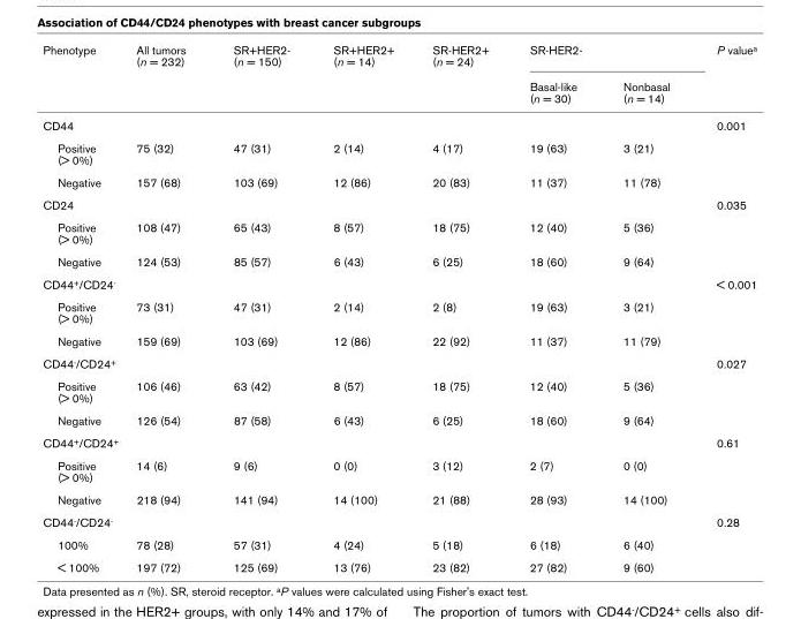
<table><thead><tr><td rowspan="2">Phenotype</td><td rowspan="2">All tumors (n = 232)</td><td rowspan="2">SR+HER2- (n = 150)</td><td rowspan="2">SR+HER2+ (n = 14)</td><td rowspan="2">SR-HER2+ (n = 24)</td><td colspan="2">SR-HER2-</td><td rowspan="2">P value<sup>a</sup></td></tr><tr><td>Basal-like (n = 30)</td><td>Nonbasal (n = 14)</td></tr></thead><tbody><tr><td>CD44</td><td></td><td></td><td></td><td></td><td></td><td></td><td>0.001</td></tr><tr><td>Positive (&gt; 0%)</td><td>75 (32)</td><td>47 (31)</td><td>2 (14)</td><td>4 (17)</td><td>19 (63)</td><td>3 (21)</td><td></td></tr><tr><td>Negative</td><td>157 (68)</td><td>103 (69)</td><td>12 (86)</td><td>20 (83)</td><td>11 (37)</td><td>11 (78)</td><td></td></tr><tr><td>CD24</td><td></td><td></td><td></td><td></td><td></td><td></td><td>0.035</td></tr><tr><td>Positive (&gt; 0%)</td><td>108 (47)</td><td>65 (43)</td><td>8 (57)</td><td>18 (75)</td><td>12 (40)</td><td>5 (36)</td><td></td></tr><tr><td>Negative</td><td>124 (53)</td><td>85 (57)</td><td>6 (43)</td><td>6 (25)</td><td>18 (60)</td><td>9 (64)</td><td></td></tr><tr><td>CD44<sup>+</sup>/CD24<sup>-</sup></td><td></td><td></td><td></td><td></td><td></td><td></td><td>&lt; 0.001</td></tr><tr><td>Positive (&gt; 0%)</td><td>73 (31)</td><td>47 (31)</td><td>2 (14)</td><td>2 (8)</td><td>19 (63)</td><td>3 (21)</td><td></td></tr><tr><td>Negative</td><td>159 (69)</td><td>103 (69)</td><td>12 (86)</td><td>22 (92)</td><td>11 (37)</td><td>11 (79)</td><td></td></tr><tr><td>CD44<sup>-</sup>/CD24<sup>+</sup></td><td></td><td></td><td></td><td></td><td></td><td></td><td>0.027</td></tr><tr><td>Positive (&gt; 0%)</td><td>106 (46)</td><td>63 (42)</td><td>8 (57)</td><td>18 (75)</td><td>12 (40)</td><td>5 (36)</td><td></td></tr><tr><td>Negative</td><td>126 (54)</td><td>87 (58)</td><td>6 (43)</td><td>6 (25)</td><td>18 (60)</td><td>9 (64)</td><td></td></tr><tr><td>CD44<sup>+</sup>/CD24<sup>+</sup></td><td></td><td></td><td></td><td></td><td></td><td></td><td>0.61</td></tr><tr><td>Positive (&gt; 0%)</td><td>14 (6)</td><td>9 (6)</td><td>0 (0)</td><td>3 (12)</td><td>2 (7)</td><td>0 (0)</td><td></td></tr><tr><td>Negative</td><td>218 (94)</td><td>141 (94)</td><td>14 (100)</td><td>21 (88)</td><td>28 (93)</td><td>14 (100)</td><td></td></tr><tr><td>CD44<sup>-</sup>/CD24<sup>-</sup></td><td></td><td></td><td></td><td></td><td></td><td></td><td>0.28</td></tr><tr><td>100%</td><td>78 (28)</td><td>57 (31)</td><td>4 (24)</td><td>5 (18)</td><td>6 (18)</td><td>6 (40)</td><td></td></tr><tr><td>&lt; 100%</td><td>197 (72)</td><td>125 (69)</td><td>13 (76)</td><td>23 (82)</td><td>27 (82)</td><td>9 (60)</td><td></td></tr></tbody></table>